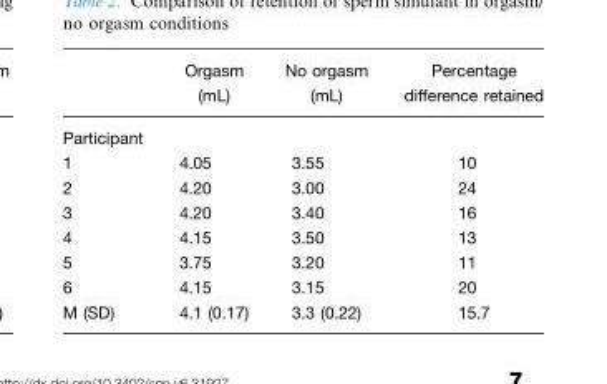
<table><thead><tr><td></td><td>Orgasm (mL)</td><td>No orgasm (mL)</td><td>Percentage difference retained</td></tr></thead><tbody><tr><td colspan="4">Participant</td></tr><tr><td>1</td><td>4.05</td><td>3.55</td><td>10</td></tr><tr><td>2</td><td>4.20</td><td>3.00</td><td>24</td></tr><tr><td>3</td><td>4.20</td><td>3.40</td><td>16</td></tr><tr><td>4</td><td>4.15</td><td>3.50</td><td>13</td></tr><tr><td>5</td><td>3.75</td><td>3.20</td><td>11</td></tr><tr><td>6</td><td>4.15</td><td>3.15</td><td>20</td></tr><tr><td>M (SD)</td><td>4.1 (0.17)</td><td>3.3 (0.22)</td><td>15.7</td></tr></tbody></table>